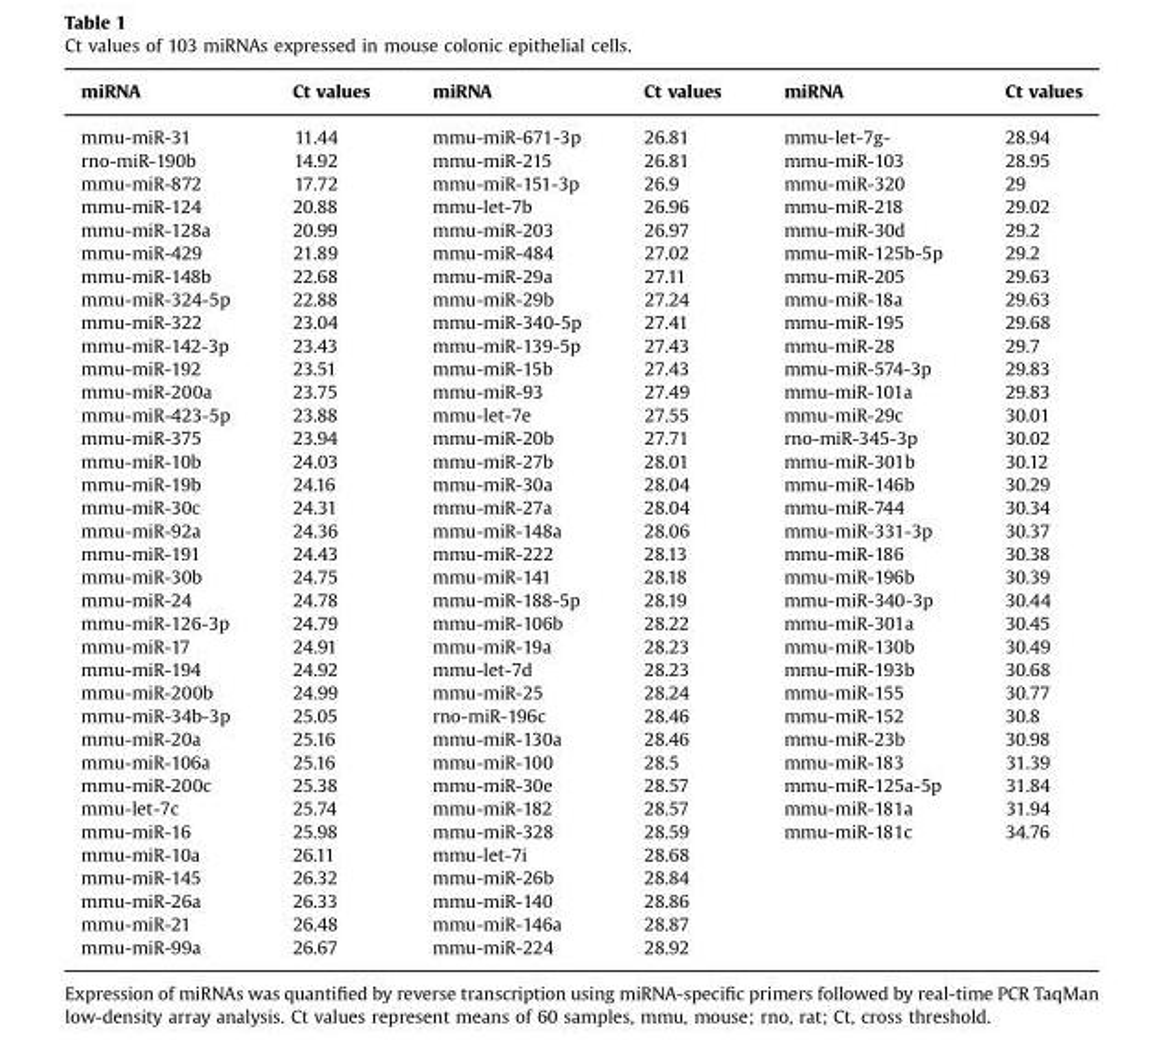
<table><thead><tr><td>miRNA</td><td>Ct values</td><td>miRNA</td><td>Ct values</td><td>miRNA</td><td>Ct values</td></tr></thead><tbody><tr><td>mmu-miR-31</td><td>11.44</td><td>mmu-miR-671-3p</td><td>26.81</td><td>mmu-let-7g-</td><td>28.94</td></tr><tr><td>rno-miR-190b</td><td>14.92</td><td>mmu-miR-215</td><td>26.81</td><td>mmu-miR-103</td><td>28.95</td></tr><tr><td>mmu-miR-872</td><td>17.72</td><td>mmu-miR-151-3p</td><td>26.9</td><td>mmu-miR-320</td><td>29</td></tr><tr><td>mmu-miR-124</td><td>20.88</td><td>mmu-let-7b</td><td>26.96</td><td>mmu-miR-218</td><td>29.02</td></tr><tr><td>mmu-miR-128a</td><td>20.99</td><td>mmu-miR-203</td><td>26.97</td><td>mmu-miR-30d</td><td>29.2</td></tr><tr><td>mmu-miR-429</td><td>21.89</td><td>mmu-miR-484</td><td>27.02</td><td>mmu-miR-125b-5p</td><td>29.2</td></tr><tr><td>mmu-miR-148b</td><td>22.68</td><td>mmu-miR-29a</td><td>27.11</td><td>mmu-miR-205</td><td>29.63</td></tr><tr><td>mmu-miR-324-5p</td><td>22.88</td><td>mmu-miR-29b</td><td>27.24</td><td>mmu-miR-18a</td><td>29.63</td></tr><tr><td>mmu-miR-322</td><td>23.04</td><td>mmu-miR-340-5p</td><td>27.41</td><td>mmu-miR-195</td><td>29.68</td></tr><tr><td>mmu-miR-142-3p</td><td>23.43</td><td>mmu-miR-139-5p</td><td>27.43</td><td>mmu-miR-28</td><td>29.7</td></tr><tr><td>mmu-miR-192</td><td>23.51</td><td>mmu-miR-15b</td><td>27.43</td><td>mmu-miR-574-3p</td><td>29.83</td></tr><tr><td>mmu-miR-200a</td><td>23.75</td><td>mmu-miR-93</td><td>27.49</td><td>mmu-miR-101a</td><td>29.83</td></tr><tr><td>mmu-miR-423-5p</td><td>23.88</td><td>mmu-let-7e</td><td>27.55</td><td>mmu-miR-29c</td><td>30.01</td></tr><tr><td>mmu-miR-375</td><td>23.94</td><td>mmu-miR-20b</td><td>27.71</td><td>rno-miR-345-3p</td><td>30.02</td></tr><tr><td>mmu-miR-10b</td><td>24.03</td><td>mmu-miR-27b</td><td>28.01</td><td>mmu-miR-301b</td><td>30.12</td></tr><tr><td>mmu-miR-19b</td><td>24.16</td><td>mmu-miR-30a</td><td>28.04</td><td>mmu-miR-146b</td><td>30.29</td></tr><tr><td>mmu-miR-30c</td><td>24.31</td><td>mmu-miR-27a</td><td>28.04</td><td>mmu-miR-744</td><td>30.34</td></tr><tr><td>mmu-miR-92a</td><td>24.36</td><td>mmu-miR-148a</td><td>28.06</td><td>mmu-miR-331-3p</td><td>30.37</td></tr><tr><td>mmu-miR-191</td><td>24.43</td><td>mmu-miR-222</td><td>28.13</td><td>mmu-miR-186</td><td>30.38</td></tr><tr><td>mmu-miR-30b</td><td>24.75</td><td>mmu-miR-141</td><td>28.18</td><td>mmu-miR-196b</td><td>30.39</td></tr><tr><td>mmu-miR-24</td><td>24.78</td><td>mmu-miR-188-5p</td><td>28.19</td><td>mmu-miR-340-3p</td><td>30.44</td></tr><tr><td>mmu-miR-126-3p</td><td>24.79</td><td>mmu-miR-106b</td><td>28.22</td><td>mmu-miR-301a</td><td>30.45</td></tr><tr><td>mmu-miR-17</td><td>24.91</td><td>mmu-miR-19a</td><td>28.23</td><td>mmu-miR-130b</td><td>30.49</td></tr><tr><td>mmu-miR-194</td><td>24.92</td><td>mmu-let-7d</td><td>28.23</td><td>mmu-miR-193b</td><td>30.68</td></tr><tr><td>mmu-miR-200b</td><td>24.99</td><td>mmu-miR-25</td><td>28.24</td><td>mmu-miR-155</td><td>30.77</td></tr><tr><td>mmu-miR-34b-3p</td><td>25.05</td><td>rno-miR-196c</td><td>28.46</td><td>mmu-miR-152</td><td>30.8</td></tr><tr><td>mmu-miR-20a</td><td>25.16</td><td>mmu-miR-130a</td><td>28.46</td><td>mmu-miR-23b</td><td>30.98</td></tr><tr><td>mmu-miR-106a</td><td>25.16</td><td>mmu-miR-100</td><td>28.5</td><td>mmu-miR-183</td><td>31.39</td></tr><tr><td>mmu-miR-200c</td><td>25.38</td><td>mmu-miR-30e</td><td>28.57</td><td>mmu-miR-125a-5p</td><td>31.84</td></tr><tr><td>mmu-let-7c</td><td>25.74</td><td>mmu-miR-182</td><td>28.57</td><td>mmu-miR-181a</td><td>31.94</td></tr><tr><td>mmu-miR-16</td><td>25.98</td><td>mmu-miR-328</td><td>28.59</td><td>mmu-miR-181c</td><td>34.76</td></tr><tr><td>mmu-miR-10a</td><td>26.11</td><td>mmu-let-7i</td><td>28.68</td><td></td><td></td></tr><tr><td>mmu-miR-145</td><td>26.32</td><td>mmu-miR-26b</td><td>28.84</td><td></td><td></td></tr><tr><td>mmu-miR-26a</td><td>26.33</td><td>mmu-miR-140</td><td>28.86</td><td></td><td></td></tr><tr><td>mmu-miR-21</td><td>26.48</td><td>mmu-miR-146a</td><td>28.87</td><td></td><td></td></tr><tr><td>mmu-miR-99a</td><td>26.67</td><td>mmu-miR-224</td><td>28.92</td><td></td><td></td></tr></tbody></table>